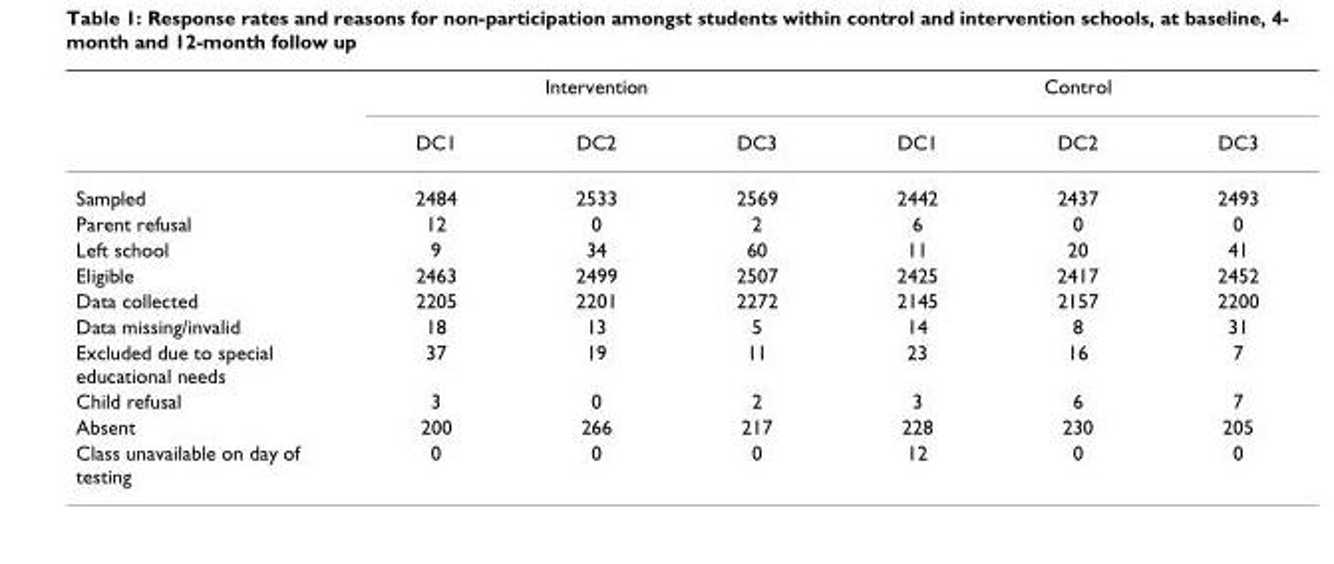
<table><thead><tr><td rowspan="2"></td><td colspan="3">Intervention</td><td colspan="3">Control</td></tr><tr><td>DC1</td><td>DC2</td><td>DC3</td><td>DC1</td><td>DC2</td><td>DC3</td></tr></thead><tbody><tr><td>Sampled</td><td>2484</td><td>2533</td><td>2569</td><td>2442</td><td>2437</td><td>2493</td></tr><tr><td>Parent refusal</td><td>12</td><td>0</td><td>2</td><td>6</td><td>0</td><td>0</td></tr><tr><td>Left school</td><td>9</td><td>34</td><td>60</td><td>11</td><td>20</td><td>41</td></tr><tr><td>Eligible</td><td>2463</td><td>2499</td><td>2507</td><td>2425</td><td>2417</td><td>2452</td></tr><tr><td>Data collected</td><td>2205</td><td>2201</td><td>2272</td><td>2145</td><td>2157</td><td>2200</td></tr><tr><td>Data missing/invalid</td><td>18</td><td>13</td><td>5</td><td>14</td><td>8</td><td>31</td></tr><tr><td>Excluded due to special educational needs</td><td>37</td><td>19</td><td>11</td><td>23</td><td>16</td><td>7</td></tr><tr><td>Child refusal</td><td>3</td><td>0</td><td>2</td><td>3</td><td>6</td><td>7</td></tr><tr><td>Absent</td><td>200</td><td>266</td><td>217</td><td>228</td><td>230</td><td>205</td></tr><tr><td>Class unavailable on day of testing</td><td>0</td><td>0</td><td>0</td><td>12</td><td>0</td><td>0</td></tr></tbody></table>